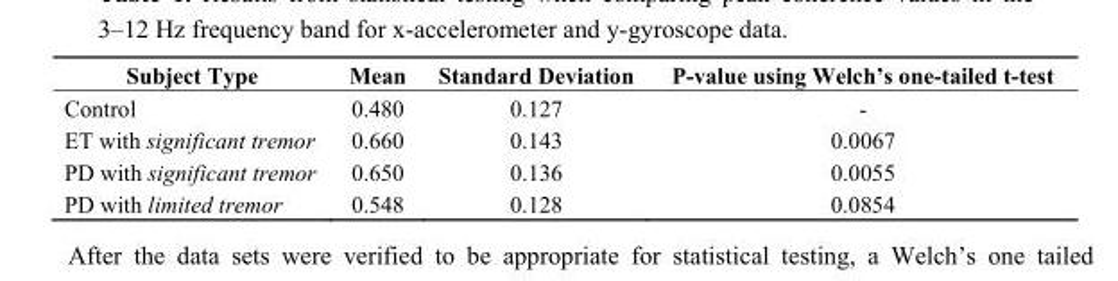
<table><thead><tr><td>Subject Type</td><td>Mean</td><td>Standard Deviation</td><td>P-value using Welch’s one-tailed t-test</td></tr></thead><tbody><tr><td>Control</td><td>0.480</td><td>0.127</td><td>-</td></tr><tr><td>ET with significant tremor</td><td>0.660</td><td>0.143</td><td>0.0067</td></tr><tr><td>PD with significant tremor</td><td>0.650</td><td>0.136</td><td>0.0055</td></tr><tr><td>PD with limited tremor</td><td>0.548</td><td>0.128</td><td>0.0854</td></tr></tbody></table>